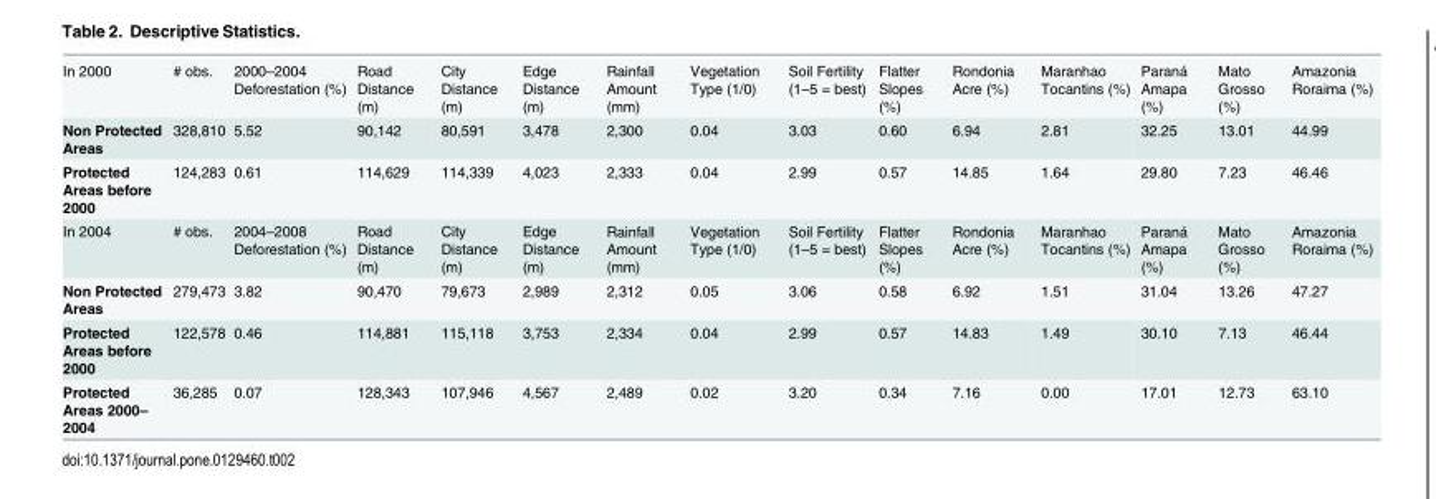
<table><tbody><tr><td>In 2000</td><td># obs.</td><td>2000–2004 Deforestation (%)</td><td>Road Distance (m)</td><td>City Distance (m)</td><td>Edge Distance (m)</td><td>Rainfall Amount (mm)</td><td>Vegetation Type (1/0)</td><td>Soil Fertility (1–5 = best)</td><td>Flatter Slopes (%)</td><td>Rondonia Acre (%)</td><td>Maranhao Tocantins (%)</td><td>Paraná Amapa (%)</td><td>Mato Grosso (%)</td><td>Amazonia Roraima (%)</td></tr><tr><td>Non Protected Areas</td><td>328,810</td><td>5.52</td><td>90,142</td><td>80,591</td><td>3,478</td><td>2,300</td><td>0.04</td><td>3.03</td><td>0.60</td><td>6.94</td><td>2.81</td><td>32.25</td><td>13.01</td><td>44.99</td></tr><tr><td>Protected Areas before 2000</td><td>124,283</td><td>0.61</td><td>114,629</td><td>114,339</td><td>4,023</td><td>2,333</td><td>0.04</td><td>2.99</td><td>0.57</td><td>14.85</td><td>1.64</td><td>29.80</td><td>7.23</td><td>46.46</td></tr><tr><td>In 2004</td><td># obs.</td><td>2004–2008 Deforestation (%)</td><td>Road Distance (m)</td><td>City Distance (m)</td><td>Edge Distance (m)</td><td>Rainfall Amount (mm)</td><td>Vegetation Type (1/0)</td><td>Soil Fertility (1–5 = best)</td><td>Flatter Slopes (%)</td><td>Rondonia Acre (%)</td><td>Maranhao Tocantins (%)</td><td>Paraná Amapa (%)</td><td>Mato Grosso (%)</td><td>Amazonia Roraima (%)</td></tr><tr><td>Non Protected Areas</td><td>279,473</td><td>3.82</td><td>90,470</td><td>79,673</td><td>2,989</td><td>2,312</td><td>0.05</td><td>3.06</td><td>0.58</td><td>6.92</td><td>1.51</td><td>31.04</td><td>13.26</td><td>47.27</td></tr><tr><td>Protected Areas before 2000</td><td>122,578</td><td>0.46</td><td>114,881</td><td>115,118</td><td>3,753</td><td>2,334</td><td>0.04</td><td>2.99</td><td>0.57</td><td>14.83</td><td>1.49</td><td>30.10</td><td>7.13</td><td>46.44</td></tr><tr><td>Protected Areas 2000– 2004</td><td>36,285</td><td>0.07</td><td>128,343</td><td>107,946</td><td>4,567</td><td>2,489</td><td>0.02</td><td>3.20</td><td>0.34</td><td>7.16</td><td>0.00</td><td>17.01</td><td>12.73</td><td>63.10</td></tr></tbody></table>